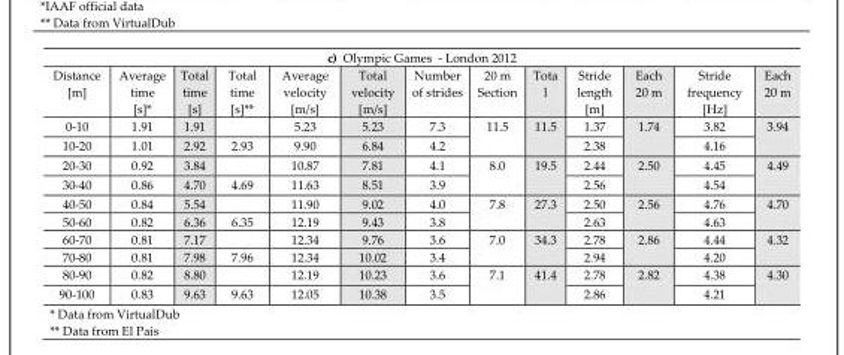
<table><thead><tr><td colspan="13">c) Olympic Games - London 2012</td></tr><tr><td>Distance [m]</td><td>Average time [s]*</td><td>Total time [s]</td><td>Total time [s]**</td><td>Average velocity [m/s]</td><td>Total velocity [m/s]</td><td>Number of strides</td><td>20 m Section</td><td>Tota l</td><td>Stride length [m]</td><td>Each 20 m</td><td>Stride frequency [Hz]</td><td>Each 20 m</td></tr></thead><tbody><tr><td>0-10</td><td>1.91</td><td>1.91</td><td></td><td>5.23</td><td>5.23</td><td>7.3</td><td rowspan="2">11.5</td><td rowspan="2">11.5</td><td>1.37</td><td rowspan="2">1.74</td><td>3.82</td><td rowspan="2">3.94</td></tr><tr><td>10-20</td><td>1.01</td><td>2.92</td><td>2.93</td><td>9.90</td><td>6.84</td><td>4.2</td><td>2.38</td><td>4.16</td></tr><tr><td>20-30</td><td>0.92</td><td>3.84</td><td></td><td>10.87</td><td>7.81</td><td>4.1</td><td rowspan="2">8.0</td><td rowspan="2">19.5</td><td>2.44</td><td rowspan="2">2.50</td><td>4.45</td><td rowspan="2">4.49</td></tr><tr><td>30-40</td><td>0.86</td><td>4.70</td><td>4.69</td><td>11.63</td><td>8.51</td><td>3.9</td><td>2.56</td><td>4.54</td></tr><tr><td>40-50</td><td>0.84</td><td>5.54</td><td></td><td>11.90</td><td>9.02</td><td>4.0</td><td rowspan="2">7.8</td><td rowspan="2">27.3</td><td>2.50</td><td rowspan="2">2.56</td><td>4.76</td><td rowspan="2">4.70</td></tr><tr><td>50-60</td><td>0.82</td><td>6.36</td><td>6.35</td><td>12.19</td><td>9.43</td><td>3.8</td><td>2.63</td><td>4.63</td></tr><tr><td>60-70</td><td>0.81</td><td>7.17</td><td></td><td>12.34</td><td>9.76</td><td>3.6</td><td rowspan="2">7.0</td><td rowspan="2">34.3</td><td>2.78</td><td rowspan="2">2.86</td><td>4.44</td><td rowspan="2">4.32</td></tr><tr><td>70-80</td><td>0.81</td><td>7.98</td><td>7.96</td><td>12.34</td><td>10.02</td><td>3.4</td><td>2.94</td><td>4.20</td></tr><tr><td>80-90</td><td>0.82</td><td>8.80</td><td></td><td>12.19</td><td>10.23</td><td>3.6</td><td rowspan="2">7.1</td><td rowspan="2">41.4</td><td>2.78</td><td rowspan="2">2.82</td><td>4.38</td><td rowspan="2">4.30</td></tr><tr><td>90-100</td><td>0.83</td><td>9.63</td><td>9.63</td><td>12.05</td><td>10.38</td><td>3.5</td><td>2.86</td><td>4.21</td></tr></tbody></table>